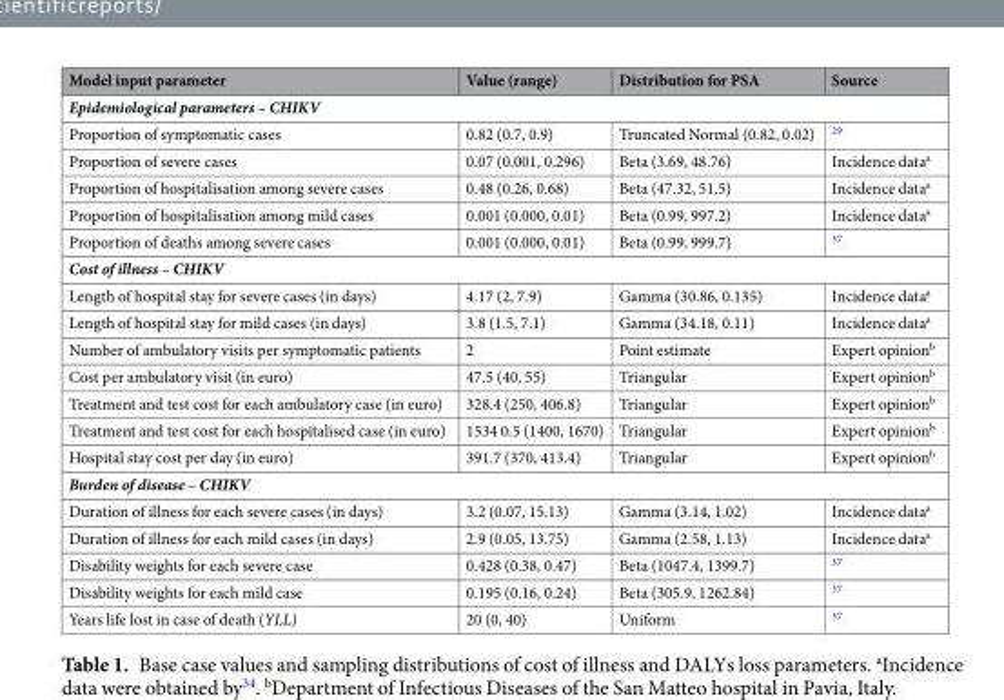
<table><thead><tr><td>Model input parameter</td><td>Value (range)</td><td>Distribution for PSA</td><td>Source</td></tr></thead><tbody><tr><td colspan="4">Epidemiological parameters – CHIKV</td></tr><tr><td>Proportion of symptomatic cases</td><td>0.82 (0.7, 0.9)</td><td>Truncated Normal (0.82, 0.02)</td><td><sup>29</sup></td></tr><tr><td>Proportion of severe cases</td><td>0.07 (0.001, 0.296)</td><td>Beta (3.69, 48.76)</td><td>Incidence data<sup>a</sup></td></tr><tr><td>Proportion of hospitalisation among severe cases</td><td>0.48 (0.26, 0.68)</td><td>Beta (47.32, 51.5)</td><td>Incidence data<sup>a</sup></td></tr><tr><td>Proportion of hospitalisation among mild cases</td><td>0.001 (0.000, 0.01)</td><td>Beta (0.99, 997.2)</td><td>Incidence data<sup>a</sup></td></tr><tr><td>Proportion of deaths among severe cases</td><td>0.001 (0.000, 0.01)</td><td>Beta (0.99, 999.7)</td><td><sup>37</sup></td></tr><tr><td colspan="4">Cost of illness – CHIKV</td></tr><tr><td>Length of hospital stay for severe cases (in days)</td><td>4.17 (2, 7.9)</td><td>Gamma (30.86, 0.135)</td><td>Incidence data<sup>a</sup></td></tr><tr><td>Length of hospital stay for mild cases (in days)</td><td>3.8 (1.5, 7.1)</td><td>Gamma (34.18, 0.11)</td><td>Incidence data<sup>a</sup></td></tr><tr><td>Number of ambulatory visits per symptomatic patients</td><td>2</td><td>Point estimate</td><td>Expert opinion<sup>b</sup></td></tr><tr><td>Cost per ambulatory visit (in euro)</td><td>47.5 (40, 55)</td><td>Triangular</td><td>Expert opinion<sup>b</sup></td></tr><tr><td>Treatment and test cost for each ambulatory case (in euro)</td><td>328.4 (250, 406.8)</td><td>Triangular</td><td>Expert opinion<sup>b</sup></td></tr><tr><td>Treatment and test cost for each hospitalised case (in euro)</td><td>1534 0.5 (1400, 1670)</td><td>Triangular</td><td>Expert opinion<sup>b</sup></td></tr><tr><td>Hospital stay cost per day (in euro)</td><td>391.7 (370, 413.4)</td><td>Triangular</td><td>Expert opinion<sup>b</sup></td></tr><tr><td colspan="4">Burden of disease – CHIKV</td></tr><tr><td>Duration of illness for each severe cases (in days)</td><td>3.2 (0.07, 15.13)</td><td>Gamma (3.14, 1.02)</td><td>Incidence data<sup>a</sup></td></tr><tr><td>Duration of illness for each mild cases (in days)</td><td>2.9 (0.05, 13.75)</td><td>Gamma (2.58, 1.13)</td><td>Incidence data<sup>a</sup></td></tr><tr><td>Disability weights for each severe case</td><td>0.428 (0.38, 0.47)</td><td>Beta (1047.4, 1399.7)</td><td><sup>37</sup></td></tr><tr><td>Disability weights for each mild case</td><td>0.195 (0.16, 0.24)</td><td>Beta (305.9, 1262.84)</td><td><sup>37</sup></td></tr><tr><td>Years life lost in case of death (YLL)</td><td>20 (0, 40)</td><td>Uniform</td><td><sup>37</sup></td></tr></tbody></table>